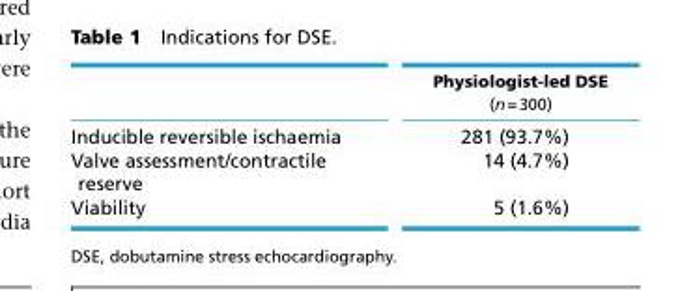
<table><thead><tr><td></td><td>Physiologist-led DSE (n = 300)</td></tr></thead><tbody><tr><td>Inducible reversible ischaemia</td><td>281 (93.7%)</td></tr><tr><td>Valve assessment/contractile reserve</td><td>14 (4.7%)</td></tr><tr><td>Viability</td><td>5 (1.6%)</td></tr></tbody></table>